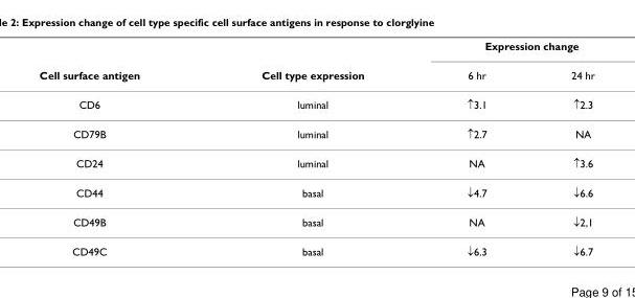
<table><thead><tr><td rowspan="2">Cell surface antigen</td><td rowspan="2">Cell type expression</td><td colspan="2">Expression change</td></tr><tr><td>6 hr</td><td>24 hr</td></tr></thead><tbody><tr><td>CD6</td><td>luminal</td><td>↑3.1</td><td>↑2.3</td></tr><tr><td>CD79B</td><td>luminal</td><td>↑2.7</td><td>NA</td></tr><tr><td>CD24</td><td>luminal</td><td>NA</td><td>↑3.6</td></tr><tr><td>CD44</td><td>basal</td><td>↓4.7</td><td>↓6.6</td></tr><tr><td>CD49B</td><td>basal</td><td>NA</td><td>↓2,1</td></tr><tr><td>CD49C</td><td>basal</td><td>↓6.3</td><td>↓6.7</td></tr></tbody></table>